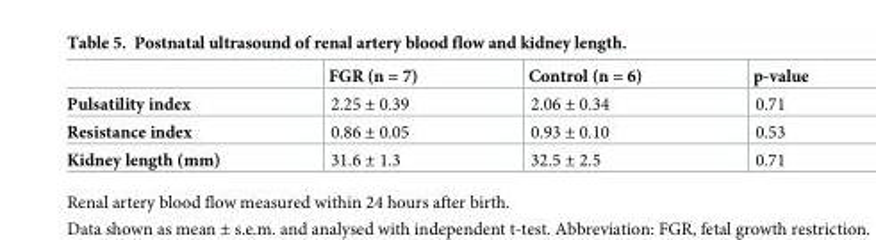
<table><thead><tr><td></td><td>FGR (n = 7)</td><td>Control (n = 6)</td><td>p-value</td></tr></thead><tbody><tr><td>Pulsatility index</td><td>2.25 ± 0.39</td><td>2.06 ± 0.34</td><td>0.71</td></tr><tr><td>Resistance index</td><td>0.86 ± 0.05</td><td>0.93 ± 0.10</td><td>0.53</td></tr><tr><td>Kidney length (mm)</td><td>31.6 ± 1.3</td><td>32.5 ± 2.5</td><td>0.71</td></tr></tbody></table>